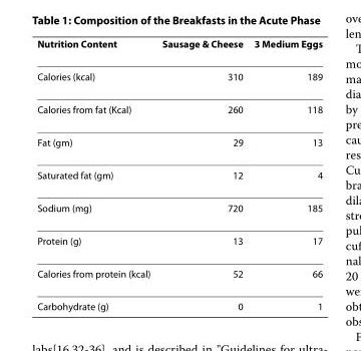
<table><thead><tr><td>Nutrition Content</td><td>Sausage &amp; Cheese</td><td>3 Medium Eggs</td></tr></thead><tbody><tr><td>Calories (kcal)</td><td>310</td><td>189</td></tr><tr><td>Calories from fat (Kcal)</td><td>260</td><td>118</td></tr><tr><td>Fat (gm)</td><td>29</td><td>13</td></tr><tr><td>Saturated fat (gm)</td><td>12</td><td>4</td></tr><tr><td>Sodium (mg)</td><td>720</td><td>185</td></tr><tr><td>Protein (g)</td><td>13</td><td>17</td></tr><tr><td>Calories from protein (kcal)</td><td>52</td><td>66</td></tr><tr><td>Carbohydrate (g)</td><td>0</td><td>1</td></tr></tbody></table>